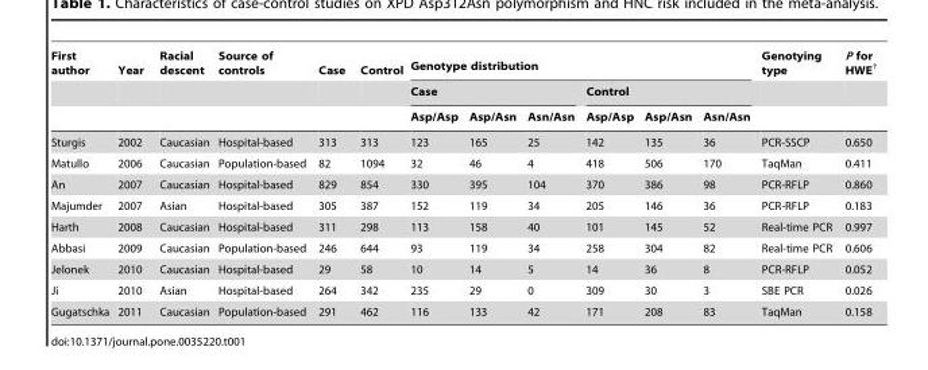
<table><thead><tr><td rowspan="3">F rst author i</td><td rowspan="3">Year</td><td rowspan="3">Racial descent</td><td rowspan="3">Source of controls</td><td rowspan="3">Case</td><td rowspan="3">Control</td><td colspan="6">Genotype distribution</td><td rowspan="3">Genotying type</td><td rowspan="3">P for HWE<sup>†</sup></td></tr><tr><td colspan="3">Case</td><td colspan="3">Control</td></tr><tr><td>Asp/Asp</td><td>Asp/Asn</td><td>Asn/Asn</td><td>Asp/Asp</td><td>Asp/Asn</td><td>Asn/Asn</td></tr></thead><tbody><tr><td>Sturgis</td><td>2002</td><td>Caucasian</td><td>Hospital-based</td><td>313</td><td>313</td><td>123</td><td>165</td><td>25</td><td>142</td><td>135</td><td>36</td><td>PCR-SSCP</td><td>0.650</td></tr><tr><td>Matullo</td><td>2006</td><td>Caucasian</td><td>Population-based</td><td>82</td><td>1094</td><td>32</td><td>46</td><td>4</td><td>418</td><td>506</td><td>170</td><td>TaqMan</td><td>0.411</td></tr><tr><td>An</td><td>2007</td><td>Caucasian</td><td>Hospital-based</td><td>829</td><td>854</td><td>330</td><td>395</td><td>104</td><td>370</td><td>386</td><td>98</td><td>PCR-RFLP</td><td>0.860</td></tr><tr><td>Majumder</td><td>2007</td><td>Asian</td><td>Hospital-based</td><td>305</td><td>387</td><td>152</td><td>119</td><td>34</td><td>205</td><td>146</td><td>36</td><td>PCR-RFLP</td><td>0.183</td></tr><tr><td>Harth</td><td>2008</td><td>Caucasian</td><td>Hospital-based</td><td>311</td><td>298</td><td>113</td><td>158</td><td>40</td><td>101</td><td>145</td><td>52</td><td>Real-time PCR</td><td>0.997</td></tr><tr><td>Abbasi</td><td>2009</td><td>Caucasian</td><td>Population-based</td><td>246</td><td>644</td><td>93</td><td>119</td><td>34</td><td>258</td><td>304</td><td>82</td><td>Real-time PCR</td><td>0.606</td></tr><tr><td>Jelonek</td><td>2010</td><td>Caucasian</td><td>Hospital-based</td><td>29</td><td>58</td><td>10</td><td>14</td><td>5</td><td>14</td><td>36</td><td>8</td><td>PCR-RFLP</td><td>0.052</td></tr><tr><td>Ji</td><td>2010</td><td>Asian</td><td>Hospital-based</td><td>264</td><td>342</td><td>235</td><td>29</td><td>0</td><td>309</td><td>30</td><td>3</td><td>SBE PCR</td><td>0.026</td></tr><tr><td>Gugatschka</td><td>2011</td><td>Caucasian</td><td>Population-based</td><td>291</td><td>462</td><td>116</td><td>133</td><td>42</td><td>171</td><td>208</td><td>83</td><td>TaqMan</td><td>0.158</td></tr></tbody></table>